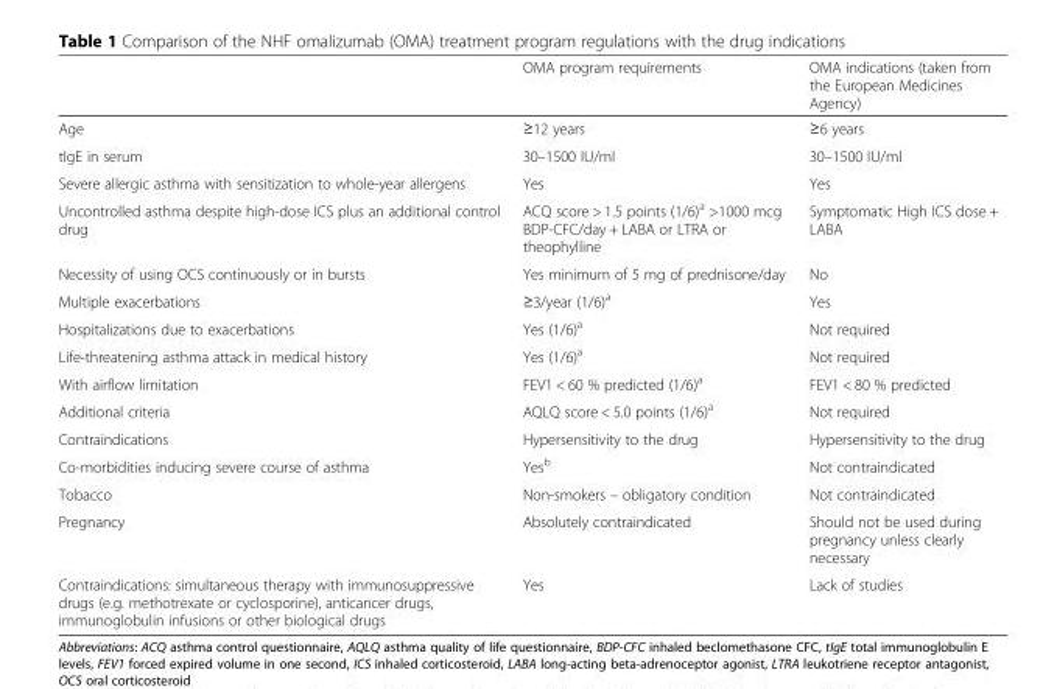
<table><thead><tr><td></td><td>OMA program requirements</td><td>OMA indications (taken from the European Medicines Agency)</td></tr></thead><tbody><tr><td>Age</td><td>≥12 years</td><td>≥6 years</td></tr><tr><td>tIgE in serum</td><td>30–1500 IU/ml</td><td>30–1500 IU/ml</td></tr><tr><td>Severe allergic asthma with sensitization to whole-year allergens</td><td>Yes</td><td>Yes</td></tr><tr><td>Uncontrolled asthma despite high-dose ICS plus an additional control drug</td><td>ACQ score &gt; 1.5 points (1/6)<sup>a</sup> &gt;1000 mcg BDP-CFC/day + LABA or LTRA or theophylline</td><td>Symptomatic High ICS dose + LABA</td></tr><tr><td>Necessity of using OCS continuously or in bursts</td><td>Yes minimum of 5 mg of prednisone/day</td><td>No</td></tr><tr><td>Multiple exacerbations</td><td>≥3/year (1/6)<sup>a</sup></td><td>Yes</td></tr><tr><td>Hospitalizations due to exacerbations</td><td>Yes (1/6)<sup>a</sup></td><td>Not required</td></tr><tr><td>Life-threatening asthma attack in medical history</td><td>Yes (1/6)<sup>a</sup></td><td>Not required</td></tr><tr><td>With airflow limitation</td><td>FEV1 &lt; 60 % predicted (1/6)<sup>a</sup></td><td>FEV1 &lt; 80 % predicted</td></tr><tr><td>Additional criteria</td><td>AQLQ score &lt; 5.0 points (1/6)<sup>a</sup></td><td>Not required</td></tr><tr><td>Contraindications</td><td>Hypersensitivity to the drug</td><td>Hypersensitivity to the drug</td></tr><tr><td>Co-morbidities inducing severe course of asthma</td><td>Yes<sup>b</sup></td><td>Not contraindicated</td></tr><tr><td>Tobacco</td><td>Non-smokers – obligatory condition</td><td>Not contraindicated</td></tr><tr><td>Pregnancy</td><td>Absolutely contraindicated</td><td>Should not be used during pregnancy unless clearly necessary</td></tr><tr><td>Contraindications: simultaneous therapy with immunosuppressive drugs (e.g. methotrexate or cyclosporine), anticancer drugs, immunoglobulin infusions or other biological drugs</td><td>Yes</td><td>Lack of studies</td></tr></tbody></table>